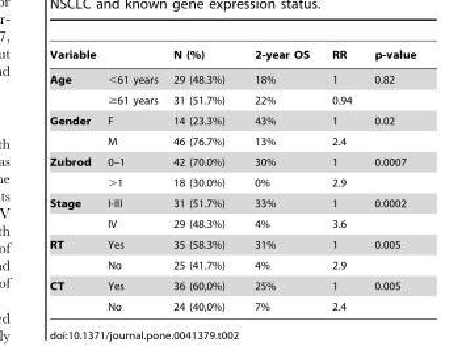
<table><thead><tr><td>Variable</td><td></td><td>N (%)</td><td>2-year OS</td><td>RR</td><td>p-value</td></tr></thead><tbody><tr><td rowspan="2">Age</td><td>&lt;61 years</td><td>29 (48.3%)</td><td>18%</td><td>1</td><td>0.82</td></tr><tr><td>≥61 years</td><td>31 (51.7%)</td><td>22%</td><td>0.94</td><td></td></tr><tr><td rowspan="2">Gender</td><td>F</td><td>14 (23.3%)</td><td>43%</td><td>1</td><td>0.02</td></tr><tr><td>M</td><td>46 (76.7%)</td><td>13%</td><td>2.4</td><td></td></tr><tr><td rowspan="2">Zubrod</td><td>0–1</td><td>42 (70.0%)</td><td>30%</td><td>1</td><td>0.0007</td></tr><tr><td>&gt;1</td><td>18 (30.0%)</td><td>0%</td><td>2.9</td><td></td></tr><tr><td rowspan="2">Stage</td><td>I-III</td><td>31 (51.7%)</td><td>33%</td><td>1</td><td>0.0002</td></tr><tr><td>IV</td><td>29 (48.3%)</td><td>4%</td><td>3.6</td><td></td></tr><tr><td rowspan="2">RT</td><td>Yes</td><td>35 (58.3%)</td><td>31%</td><td>1</td><td>0.005</td></tr><tr><td>No</td><td>25 (41.7%)</td><td>4%</td><td>2.9</td><td></td></tr><tr><td rowspan="2">CT</td><td>Yes</td><td>36 (60,0%)</td><td>25%</td><td>1</td><td>0.005</td></tr><tr><td>No</td><td>24 (40,0%)</td><td>7%</td><td>2.4</td><td></td></tr></tbody></table>